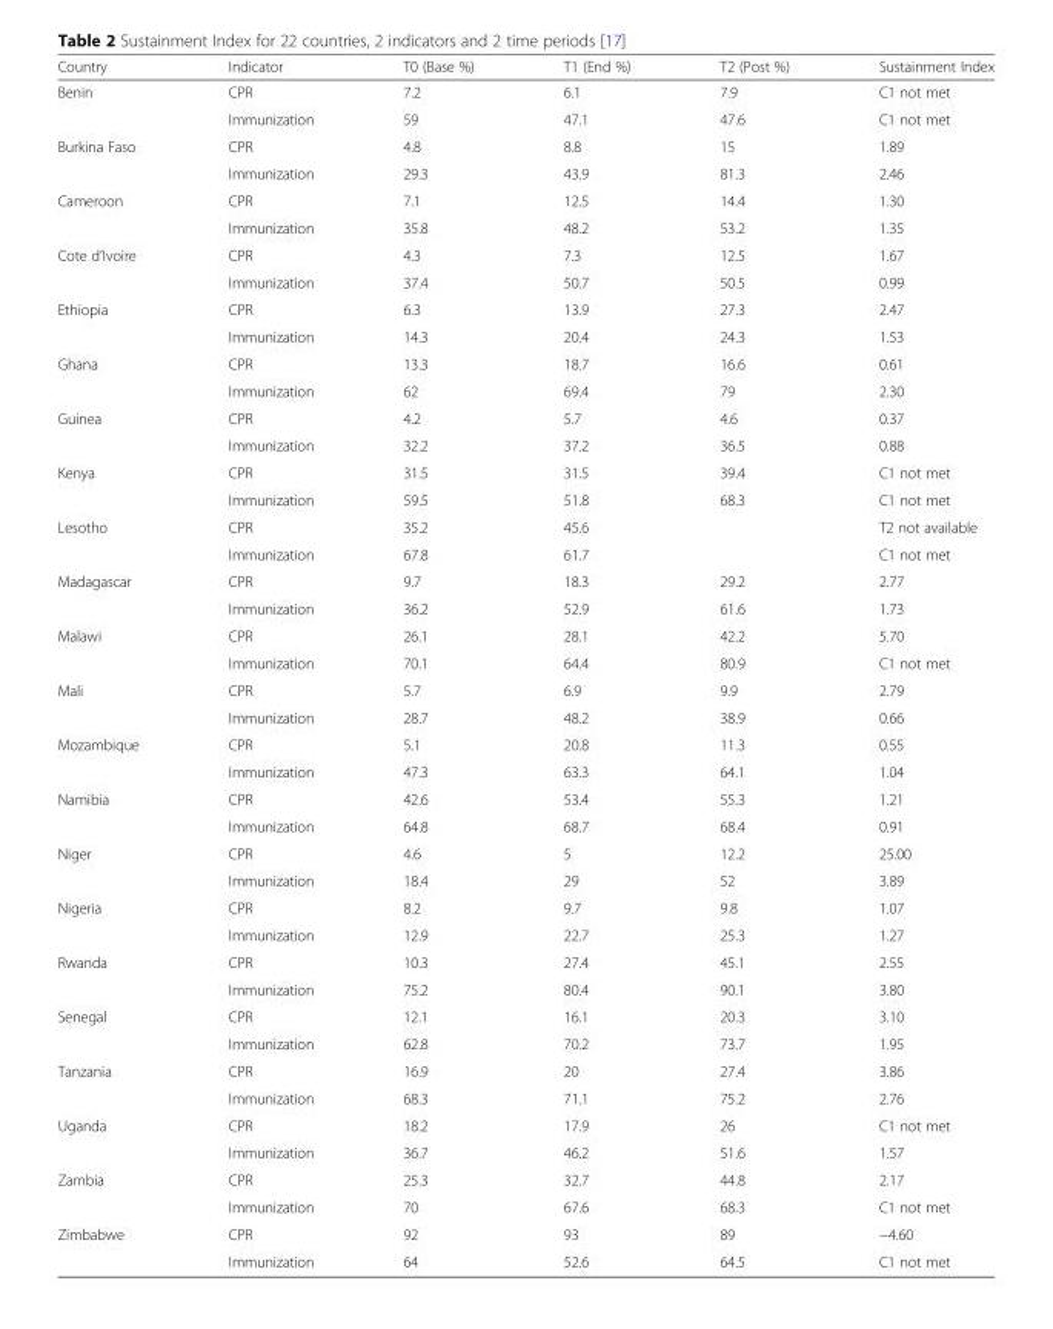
<table><thead><tr><td>Country</td><td>Indicator</td><td>T0 (Base %)</td><td>T1 (End %)</td><td>T2 (Post %)</td><td>Sustainment Index</td></tr></thead><tbody><tr><td rowspan="2">Benin</td><td>CPR</td><td>7.2</td><td>6.1</td><td>7.9</td><td>C1 not met</td></tr><tr><td>Immunization</td><td>59</td><td>47.1</td><td>47.6</td><td>C1 not met</td></tr><tr><td rowspan="2">Burkina Faso</td><td>CPR</td><td>4.8</td><td>8.8</td><td>15</td><td>1.89</td></tr><tr><td>Immunization</td><td>29.3</td><td>43.9</td><td>81.3</td><td>2.46</td></tr><tr><td rowspan="2">Cameroon</td><td>CPR</td><td>7.1</td><td>12.5</td><td>14.4</td><td>1.30</td></tr><tr><td>Immunization</td><td>35.8</td><td>48.2</td><td>53.2</td><td>1.35</td></tr><tr><td rowspan="2">Cote d’Ivoire</td><td>CPR</td><td>4.3</td><td>7.3</td><td>12.5</td><td>1.67</td></tr><tr><td>Immunization</td><td>37.4</td><td>50.7</td><td>50.5</td><td>0.99</td></tr><tr><td rowspan="2">Ethiopia</td><td>CPR</td><td>6.3</td><td>13.9</td><td>27.3</td><td>2.47</td></tr><tr><td>Immunization</td><td>14.3</td><td>20.4</td><td>24.3</td><td>1.53</td></tr><tr><td rowspan="2">Ghana</td><td>CPR</td><td>13.3</td><td>18.7</td><td>16.6</td><td>0.61</td></tr><tr><td>Immunization</td><td>62</td><td>69.4</td><td>79</td><td>2.30</td></tr><tr><td rowspan="2">Guinea</td><td>CPR</td><td>4.2</td><td>5.7</td><td>4.6</td><td>0.37</td></tr><tr><td>Immunization</td><td>32.2</td><td>37.2</td><td>36.5</td><td>0.88</td></tr><tr><td rowspan="2">Kenya</td><td>CPR</td><td>31.5</td><td>31.5</td><td>39.4</td><td>C1 not met</td></tr><tr><td>Immunization</td><td>59.5</td><td>51.8</td><td>68.3</td><td>C1 not met</td></tr><tr><td rowspan="2">Lesotho</td><td>CPR</td><td>35.2</td><td>45.6</td><td></td><td>T2 not available</td></tr><tr><td>Immunization</td><td>67.8</td><td>61.7</td><td></td><td>C1 not met</td></tr><tr><td rowspan="2">Madagascar</td><td>CPR</td><td>9.7</td><td>18.3</td><td>29.2</td><td>2.77</td></tr><tr><td>Immunization</td><td>36.2</td><td>52.9</td><td>61.6</td><td>1.73</td></tr><tr><td rowspan="2">Malawi</td><td>CPR</td><td>26.1</td><td>28.1</td><td>42.2</td><td>5.70</td></tr><tr><td>Immunization</td><td>70.1</td><td>64.4</td><td>80.9</td><td>C1 not met</td></tr><tr><td rowspan="2">Mali</td><td>CPR</td><td>5.7</td><td>6.9</td><td>9.9</td><td>2.79</td></tr><tr><td>Immunization</td><td>28.7</td><td>48.2</td><td>38.9</td><td>0.66</td></tr><tr><td rowspan="2">Mozambique</td><td>CPR</td><td>5.1</td><td>20.8</td><td>11.3</td><td>0.55</td></tr><tr><td>Immunization</td><td>47.3</td><td>63.3</td><td>64.1</td><td>1.04</td></tr><tr><td rowspan="2">Namibia</td><td>CPR</td><td>42.6</td><td>53.4</td><td>55.3</td><td>1.21</td></tr><tr><td>Immunization</td><td>64.8</td><td>68.7</td><td>68.4</td><td>0.91</td></tr><tr><td rowspan="2">Niger</td><td>CPR</td><td>4.6</td><td>5</td><td>12.2</td><td>25.00</td></tr><tr><td>Immunization</td><td>18.4</td><td>29</td><td>52</td><td>3.89</td></tr><tr><td rowspan="2">Nigeria</td><td>CPR</td><td>8.2</td><td>9.7</td><td>9.8</td><td>1.07</td></tr><tr><td>Immunization</td><td>12.9</td><td>22.7</td><td>25.3</td><td>1.27</td></tr><tr><td rowspan="2">Rwanda</td><td>CPR</td><td>10.3</td><td>27.4</td><td>45.1</td><td>2.55</td></tr><tr><td>Immunization</td><td>75.2</td><td>80.4</td><td>90.1</td><td>3.80</td></tr><tr><td rowspan="2">Senegal</td><td>CPR</td><td>12.1</td><td>16.1</td><td>20.3</td><td>3.10</td></tr><tr><td>Immunization</td><td>62.8</td><td>70.2</td><td>73.7</td><td>1.95</td></tr><tr><td rowspan="2">Tanzania</td><td>CPR</td><td>16.9</td><td>20</td><td>27.4</td><td>3.86</td></tr><tr><td>Immunization</td><td>68.3</td><td>71.1</td><td>75.2</td><td>2.76</td></tr><tr><td rowspan="2">Uganda</td><td>CPR</td><td>18.2</td><td>17.9</td><td>26</td><td>C1 not met</td></tr><tr><td>Immunization</td><td>36.7</td><td>46.2</td><td>51.6</td><td>1.57</td></tr><tr><td rowspan="2">Zambia</td><td>CPR</td><td>25.3</td><td>32.7</td><td>44.8</td><td>2.17</td></tr><tr><td>Immunization</td><td>70</td><td>67.6</td><td>68.3</td><td>C1 not met</td></tr><tr><td rowspan="2">Zimbabwe</td><td>CPR</td><td>92</td><td>93</td><td>89</td><td>−4.60</td></tr><tr><td>Immunization</td><td>64</td><td>52.6</td><td>64.5</td><td>C1 not met</td></tr></tbody></table>